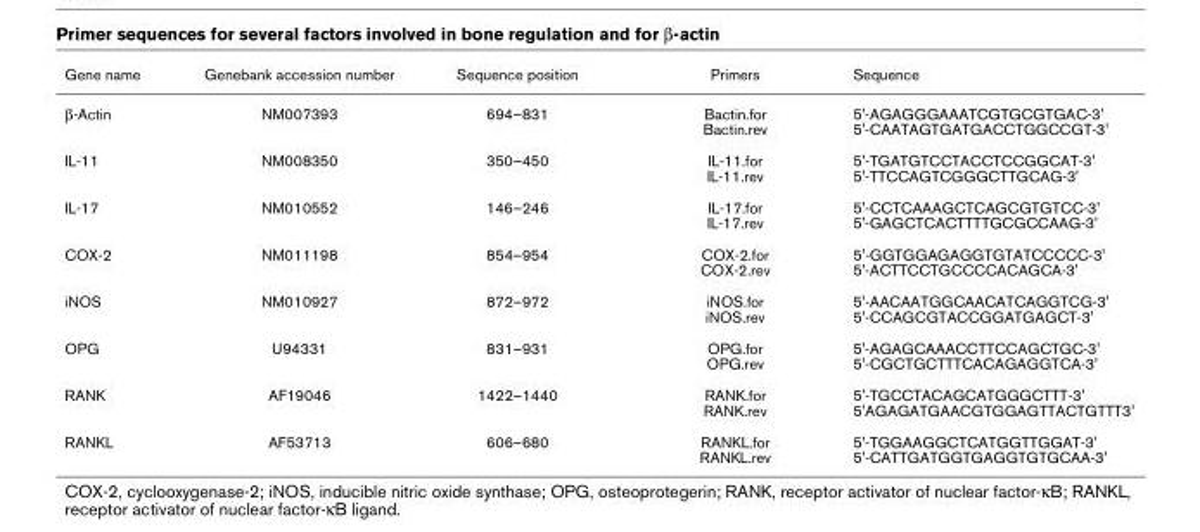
<table><thead><tr><td>Gene name</td><td>Genebank accession number</td><td>Sequence position</td><td>Primers</td><td>Sequence</td></tr></thead><tbody><tr><td>β-Actin</td><td>NM007393</td><td>694–831</td><td>Bactin.for Bactin.rev</td><td>5&#x27;-AGAGGGAAATCGTGCGTGAC-3&#x27; 5&#x27;-CAATAGTGATGACCTGGCCGT-3&#x27;</td></tr><tr><td>IL-11</td><td>NM008350</td><td>350–450</td><td>IL-11.for IL-11.rev</td><td>5&#x27;-TGATGTCCTACCTCCGGCAT-3&#x27; 5&#x27;-TTCCAGTCGGGCTTGCAG-3&#x27;</td></tr><tr><td>IL-17</td><td>NM010552</td><td>146–246</td><td>IL-17.for IL-17.rev</td><td>5&#x27;-CCTCAAAGCTCAGCGTGTCC-3&#x27; 5&#x27;-GAGCTCACTTTTGCGCCAAG-3&#x27;</td></tr><tr><td>COX-2</td><td>NM011198</td><td>854–954</td><td>COX-2.for COX-2.rev</td><td>5&#x27;-GGTGGAGAGGTGTATCCCCC-3&#x27; 5&#x27;-ACTTCCTGCCCCACAGCA-3&#x27;</td></tr><tr><td>iNOS</td><td>NM010927</td><td>872–972</td><td>iNOS.for iNOS.rev</td><td>5&#x27;-AACAATGGCAACATCAGGTCG-3&#x27; 5&#x27;-CCAGCGTACCGGATGAGCT-3&#x27;</td></tr><tr><td>OPG</td><td>U94331</td><td>831–931</td><td>OPG.for OPG.rev</td><td>5&#x27;-AGAGCAAACCTTCCAGCTGC-3&#x27; 5&#x27;-CGCTGCTTTCACAGAGGTCA-3&#x27;</td></tr><tr><td>RANK</td><td>AF19046</td><td>1422–1440</td><td>RANK.for RANK.rev</td><td>5&#x27;-TGCCTACAGCATGGGCTTT-3&#x27; 5&#x27;AGAGATGAACGTGGAGTTACTGTTT3&#x27;</td></tr><tr><td>RANKL</td><td>AF53713</td><td>606–680</td><td>RANKL.for RANKL.rev</td><td>5&#x27;-TGGAAGGCTCATGGTTGGAT-3&#x27; 5&#x27;-CATTGATGGTGAGGTGTGCAA-3&#x27;</td></tr></tbody></table>